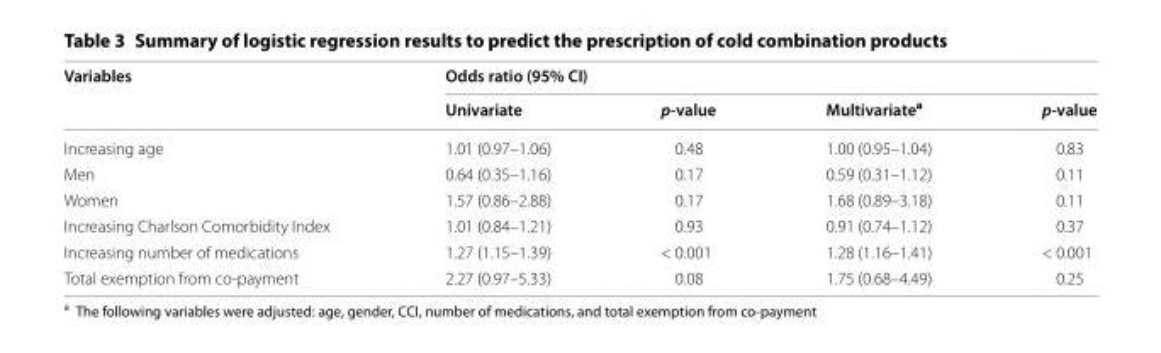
<table><thead><tr><td rowspan="2">Variables</td><td colspan="4">Odds ratio (95% CI)</td></tr><tr><td>Univariate</td><td>p-value</td><td>Multivariate<sup>a</sup></td><td>p-value</td></tr></thead><tbody><tr><td>Increasing age</td><td>1.01 (0.97–1.06)</td><td>0.48</td><td>1.00 (0.95–1.04)</td><td>0.83</td></tr><tr><td>Men</td><td>0.64 (0.35–1.16)</td><td>0.17</td><td>0.59 (0.31–1.12)</td><td>0.11</td></tr><tr><td>Women</td><td>1.57 (0.86–2.88)</td><td>0.17</td><td>1.68 (0.89–3.18)</td><td>0.11</td></tr><tr><td>Increasing Charlson Comorbidity Index</td><td>1.01 (0.84–1.21)</td><td>0.93</td><td>0.91 (0.74–1.12)</td><td>0.37</td></tr><tr><td>Increasing number of medications</td><td>1.27 (1.15–1.39)</td><td>&lt; 0.001</td><td>1.28 (1.16–1.41)</td><td>&lt; 0.001</td></tr><tr><td>Total exemption from co-payment</td><td>2.27 (0.97–5.33)</td><td>0.08</td><td>1.75 (0.68–4.49)</td><td>0.25</td></tr></tbody></table>